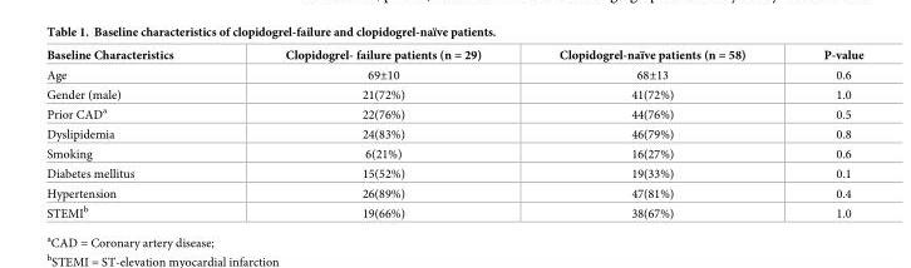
<table><thead><tr><td>Baseline Characteristics</td><td>Clopidogrel- failure patients (n = 29)</td><td>Clopidogrel-naïve patients (n = 58)</td><td>P-value</td></tr></thead><tbody><tr><td>Age</td><td>69±10</td><td>68±13</td><td>0.6</td></tr><tr><td>Gender (male)</td><td>21(72%)</td><td>41(72%)</td><td>1.0</td></tr><tr><td>Prior CAD<sup>a</sup></td><td>22(76%)</td><td>44(76%)</td><td>0.5</td></tr><tr><td>Dyslipidemia</td><td>24(83%)</td><td>46(79%)</td><td>0.8</td></tr><tr><td>Smoking</td><td>6(21%)</td><td>16(27%)</td><td>0.6</td></tr><tr><td>Diabetes mellitus</td><td>15(52%)</td><td>19(33%)</td><td>0.1</td></tr><tr><td>Hypertension</td><td>26(89%)</td><td>47(81%)</td><td>0.4</td></tr><tr><td>STEMI<sup>b</sup></td><td>19(66%)</td><td>38(67%)</td><td>1.0</td></tr></tbody></table>